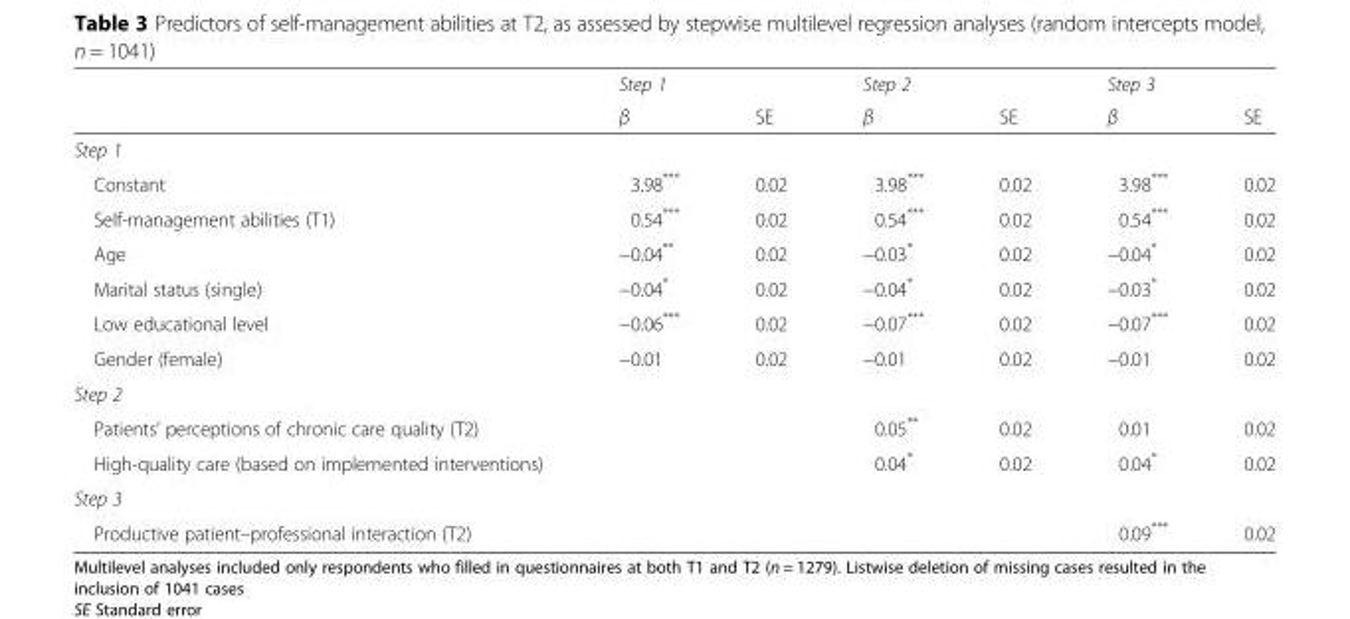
<table><thead><tr><td rowspan="2"></td><td rowspan="2">Step 1 β</td><td rowspan="2">SE</td><td rowspan="2">Step 2 β</td><td rowspan="2">SE</td><td rowspan="2">Step 3 β</td><td rowspan="2">SE</td></tr><tr></tr></thead><tbody><tr><td colspan="7">Step 1</td></tr><tr><td>Constant</td><td>3.98***</td><td>0.02</td><td>3.98***</td><td>0.02</td><td>3.98***</td><td>0.02</td></tr><tr><td>Self-management abilities (T1)</td><td>0.54***</td><td>0.02</td><td>0.54***</td><td>0.02</td><td>0.54***</td><td>0.02</td></tr><tr><td>Age</td><td>−0.04**</td><td>0.02</td><td>−0.03*</td><td>0.02</td><td>−0.04*</td><td>0.02</td></tr><tr><td>Marital status (single)</td><td>−0.04*</td><td>0.02</td><td>−0.04*</td><td>0.02</td><td>−0.03*</td><td>0.02</td></tr><tr><td>Low educational level</td><td>−0.06***</td><td>0.02</td><td>−0.07***</td><td>0.02</td><td>−0.07***</td><td>0.02</td></tr><tr><td>Gender (female)</td><td>−0.01</td><td>0.02</td><td>−0.01</td><td>0.02</td><td>−0.01</td><td>0.02</td></tr><tr><td colspan="7">Step 2</td></tr><tr><td>Patients’ perceptions of chronic care quality (T2)</td><td></td><td></td><td>0.05**</td><td>0.02</td><td>0.01</td><td>0.02</td></tr><tr><td>High-quality care (based on implemented interventions)</td><td></td><td></td><td>0.04*</td><td>0.02</td><td>0.04*</td><td>0.02</td></tr><tr><td colspan="7">Step 3</td></tr><tr><td>Productive patient–professional interaction (T2)</td><td></td><td></td><td></td><td></td><td>0.09***</td><td>0.02</td></tr></tbody></table>